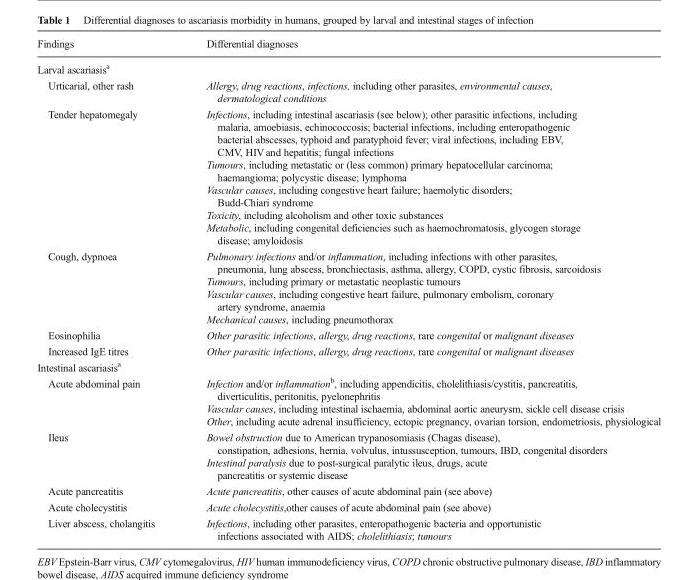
<table><thead><tr><td>Findings</td><td>Differential diagnoses</td></tr></thead><tbody><tr><td colspan="2">Larval ascariasis<sup>a</sup></td></tr><tr><td>Urticarial, other rash</td><td>Allergy, drug reactions, infections, including other parasites, environmental causes, dermatological conditions</td></tr><tr><td>Tender hepatomegaly</td><td>Infections, including intestinal ascariasis (see below); other parasitic infections, including malaria, amoebiasis, echinococcosis; bacterial infections, including enteropathogenic bacterial abscesses, typhoid and paratyphoid fever; viral infections, including EBV, CMV, HIV and hepatitis; fungal infections Tumours, including metastatic or (less common) primary hepatocellular carcinoma; haemangioma; polycystic disease; lymphoma Vascular causes, including congestive heart failure; haemolytic disorders; Budd-Chiari syndrome Toxicity, including alcoholism and other toxic substances Metabolic, including congenital deficiencies such as haemochromatosis, glycogen storage disease; amyloidosis</td></tr><tr><td>Cough, dypnoea</td><td>Pulmonary infections and/or inflammation, including infections with other parasites, pneumonia, lung abscess, bronchiectasis, asthma, allergy, COPD, cystic fibrosis, sarcoidosis Tumours, including primary or metastatic neoplastic tumours Vascular causes, including congestive heart failure, pulmonary embolism, coronary artery syndrome, anaemia Mechanical causes, including pneumothorax</td></tr><tr><td>Eosinophilia</td><td>Other parasitic infections, allergy, drug reactions, rare congenital or malignant diseases</td></tr><tr><td>Increased IgE titres</td><td>Other parasitic infections, allergy, drug reactions, rare congenital or malignant diseases</td></tr><tr><td colspan="2">Intestinal ascariasis<sup>a</sup></td></tr><tr><td>Acute abdominal pain</td><td>Infection and/or inflammation<sup>b</sup>, including appendicitis, cholelithiasis/cystitis, pancreatitis, diverticulitis, peritonitis, pyelonephritis Vascular causes, including intestinal ischaemia, abdominal aortic aneurysm, sickle cell disease crisis Other, including acute adrenal insufficiency, ectopic pregnancy, ovarian torsion, endometriosis, physiological</td></tr><tr><td>Ileus</td><td>Bowel obstruction due to American trypanosomiasis (Chagas disease), constipation, adhesions, hernia, volvulus, intussusception, tumours, IBD, congenital disorders Intestinal paralysis due to post-surgical paralytic ileus, drugs, acute pancreatitis or systemic disease</td></tr><tr><td>Acute pancreatitis</td><td>Acute pancreatitis, other causes of acute abdominal pain (see above)</td></tr><tr><td>Acute cholecystitis</td><td>Acute cholecystitis,other causes of acute abdominal pain (see above)</td></tr><tr><td>Liver abscess, cholangitis</td><td>Infections, including other parasites, enteropathogenic bacteria and opportunistic infections associated with AIDS; cholelithiasis; tumours</td></tr></tbody></table>